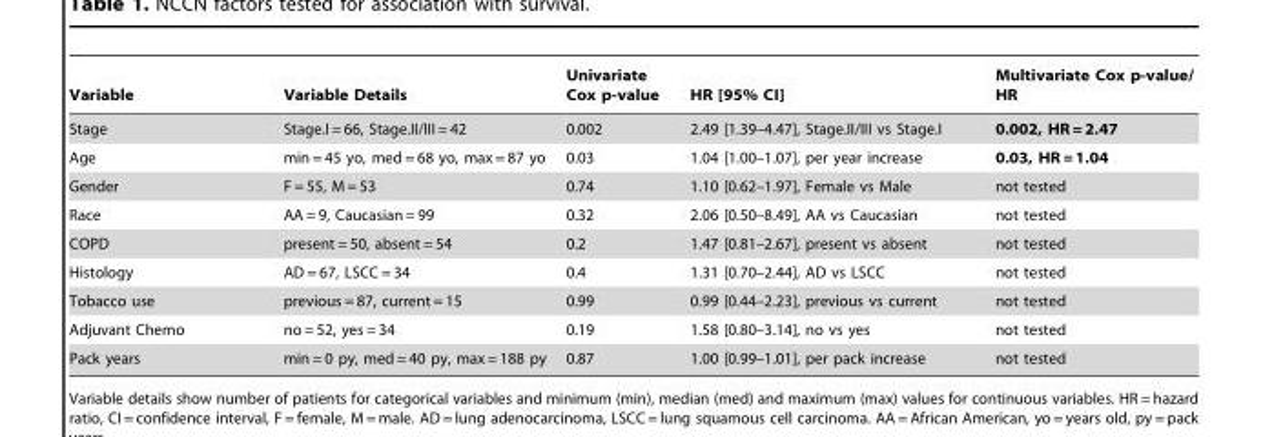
<table><thead><tr><td>Variable</td><td>Variable Details</td><td>Univariate Cox p-value</td><td>HR [95% CI]</td><td>Multivariate Cox p-value/ HR</td></tr></thead><tbody><tr><td>Stage</td><td>Stage.I = 66, Stage.II/III = 42</td><td>0.002</td><td>2.49 [1.39–4.47], Stage.II/III vs Stage.I</td><td>0.002, HR = 2.47</td></tr><tr><td>Age</td><td>min = 45 yo, med = 68 yo, max = 87 yo</td><td>0.03</td><td>1.04 [1.00–1.07], per year increase</td><td>0.03, HR = 1.04</td></tr><tr><td>Gender</td><td>F = 55, M = 53</td><td>0.74</td><td>1.10 [0.62–1.97], Female vs Male</td><td>not tested</td></tr><tr><td>Race</td><td>AA = 9, Caucasian = 99</td><td>0.32</td><td>2.06 [0.50–8.49], AA vs Caucasian</td><td>not tested</td></tr><tr><td>COPD</td><td>present = 50, absent = 54</td><td>0.2</td><td>1.47 [0.81–2.67], present vs absent</td><td>not tested</td></tr><tr><td>Histology</td><td>AD = 67, LSCC = 34</td><td>0.4</td><td>1.31 [0.70–2.44], AD vs LSCC</td><td>not tested</td></tr><tr><td>Tobacco use</td><td>previous = 87, current = 15</td><td>0.99</td><td>0.99 [0.44–2.23], previous vs current</td><td>not tested</td></tr><tr><td>Adjuvant Chemo</td><td>no = 52, yes = 34</td><td>0.19</td><td>1.58 [0.80–3.14], no vs yes</td><td>not tested</td></tr><tr><td>Pack years</td><td>min = 0 py, med = 40 py, max = 188 py</td><td>0.87</td><td>1.00 [0.99–1.01], per pack increase</td><td>not tested</td></tr></tbody></table>